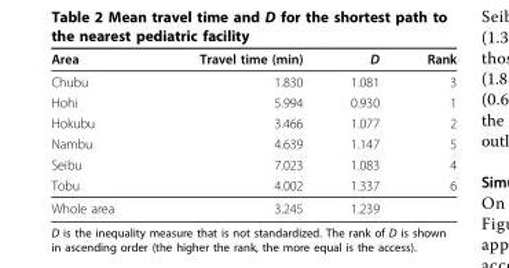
<table><thead><tr><td>Area</td><td>Travel time (min)</td><td>D</td><td>Rank</td></tr></thead><tbody><tr><td>Chubu</td><td>1.830</td><td>1.081</td><td>3</td></tr><tr><td>Hohi</td><td>5.994</td><td>0.930</td><td>1</td></tr><tr><td>Hokubu</td><td>3.466</td><td>1.077</td><td>2</td></tr><tr><td>Nambu</td><td>4.639</td><td>1.147</td><td>5</td></tr><tr><td>Seibu</td><td>7.023</td><td>1.083</td><td>4</td></tr><tr><td>Tobu</td><td>4.002</td><td>1.337</td><td>6</td></tr><tr><td>Whole area</td><td>3.245</td><td>1.239</td><td></td></tr></tbody></table>